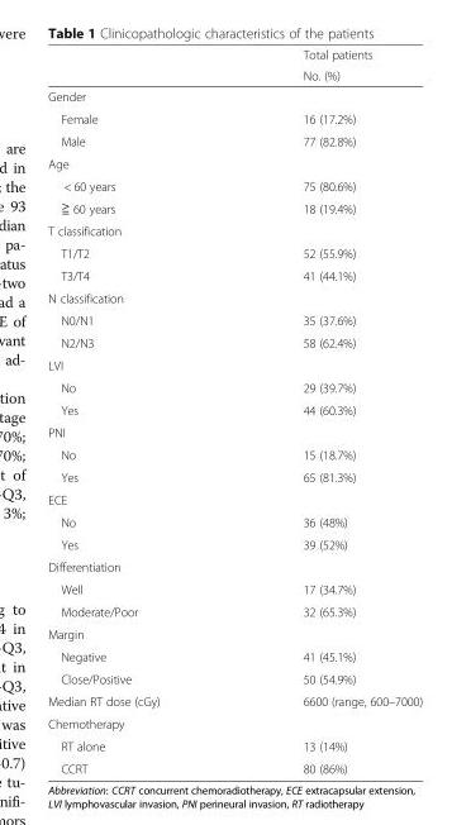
<table><thead><tr><td rowspan="2"></td><td rowspan="2">Total patients No. (%)</td></tr><tr></tr></thead><tbody><tr><td colspan="2">Gender</td></tr><tr><td>Female</td><td>16 (17.2%)</td></tr><tr><td>Male</td><td>77 (82.8%)</td></tr><tr><td colspan="2">Age</td></tr><tr><td>&lt; 60 years</td><td>75 (80.6%)</td></tr><tr><td>≧ 60 years</td><td>18 (19.4%)</td></tr><tr><td colspan="2">T classification</td></tr><tr><td>T1/T2</td><td>52 (55.9%)</td></tr><tr><td>T3/T4</td><td>41 (44.1%)</td></tr><tr><td colspan="2">N classification</td></tr><tr><td>N0/N1</td><td>35 (37.6%)</td></tr><tr><td>N2/N3</td><td>58 (62.4%)</td></tr><tr><td colspan="2">LVI</td></tr><tr><td>No</td><td>29 (39.7%)</td></tr><tr><td>Yes</td><td>44 (60.3%)</td></tr><tr><td colspan="2">PNI</td></tr><tr><td>No</td><td>15 (18.7%)</td></tr><tr><td>Yes</td><td>65 (81.3%)</td></tr><tr><td colspan="2">ECE</td></tr><tr><td>No</td><td>36 (48%)</td></tr><tr><td>Yes</td><td>39 (52%)</td></tr><tr><td colspan="2">Differentiation</td></tr><tr><td>Well</td><td>17 (34.7%)</td></tr><tr><td>Moderate/Poor</td><td>32 (65.3%)</td></tr><tr><td colspan="2">Margin</td></tr><tr><td>Negative</td><td>41 (45.1%)</td></tr><tr><td>Close/Positive</td><td>50 (54.9%)</td></tr><tr><td>Median RT dose (cGy)</td><td>6600 (range, 600–7000)</td></tr><tr><td colspan="2">Chemotherapy</td></tr><tr><td>RT alone</td><td>13 (14%)</td></tr><tr><td>CCRT</td><td>80 (86%)</td></tr></tbody></table>